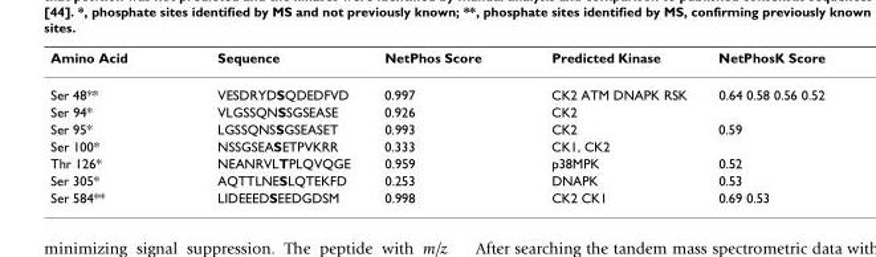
<table><thead><tr><td>Amino Acid</td><td>Sequence</td><td>NetPhos Score</td><td>Predicted Kinase</td><td>NetPhosK Score</td></tr></thead><tbody><tr><td>Ser 48**</td><td>VESDRYDSQDEDFVD</td><td>0.997</td><td>CK2 ATM DNAPK RSK</td><td>0.64 0.58 0.56 0.52</td></tr><tr><td>Ser 94*</td><td>VLGSSQNSSGSEASE</td><td>0.926</td><td>CK2</td><td></td></tr><tr><td>Ser 95*</td><td>LGSSQNSSGSEASET</td><td>0.993</td><td>CK2</td><td>0.59</td></tr><tr><td>Ser 100*</td><td>NSSGSEASETPVKRR</td><td>0.333</td><td>CK1, CK2</td><td></td></tr><tr><td>Thr 126*</td><td>NEANRVLTPLQVQGE</td><td>0.959</td><td>p38MPK</td><td>0.52</td></tr><tr><td>Ser 305*</td><td>AQTTLNESLQTEKFD</td><td>0.253</td><td>DNAPK</td><td>0.53</td></tr><tr><td>Ser 584**</td><td>LIDEEEDSEEDGDSM</td><td>0.998</td><td>CK2 CK1</td><td>0.69 0.53</td></tr></tbody></table>